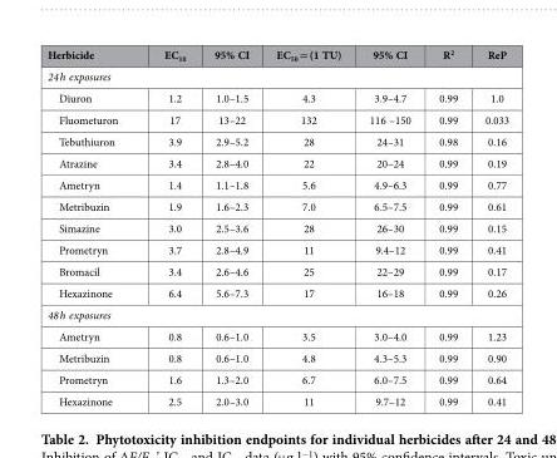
<table><thead><tr><td>Herbicide</td><td>EC<sub>10</sub></td><td>95% CI</td><td>EC<sub>50</sub> = (1 TU)</td><td>95% CI</td><td>R<sup>2</sup></td><td>ReP</td></tr></thead><tbody><tr><td colspan="7">24 h exposures</td></tr><tr><td>Diuron</td><td>1.2</td><td>1.0–1.5</td><td>4.3</td><td>3.9–4.7</td><td>0.99</td><td>1.0</td></tr><tr><td>Fluometuron</td><td>17</td><td>13–22</td><td>132</td><td>116 –150</td><td>0.99</td><td>0.033</td></tr><tr><td>Tebuthiuron</td><td>3.9</td><td>2.9–5.2</td><td>28</td><td>24–31</td><td>0.98</td><td>0.16</td></tr><tr><td>Atrazine</td><td>3.4</td><td>2.8–4.0</td><td>22</td><td>20–24</td><td>0.99</td><td>0.19</td></tr><tr><td>Ametryn</td><td>1.4</td><td>1.1–1.8</td><td>5.6</td><td>4.9–6.3</td><td>0.99</td><td>0.77</td></tr><tr><td>Metribuzin</td><td>1.9</td><td>1.6–2.3</td><td>7.0</td><td>6.5–7.5</td><td>0.99</td><td>0.61</td></tr><tr><td>Simazine</td><td>3.0</td><td>2.5–3.6</td><td>28</td><td>26–30</td><td>0.99</td><td>0.15</td></tr><tr><td>Prometryn</td><td>3.7</td><td>2.8–4.9</td><td>11</td><td>9.4–12</td><td>0.99</td><td>0.41</td></tr><tr><td>Bromacil</td><td>3.4</td><td>2.6–4.6</td><td>25</td><td>22–29</td><td>0.99</td><td>0.17</td></tr><tr><td>Hexazinone</td><td>6.4</td><td>5.6–7.3</td><td>17</td><td>16–18</td><td>0.99</td><td>0.26</td></tr><tr><td colspan="7">48 h exposures</td></tr><tr><td>Ametryn</td><td>0.8</td><td>0.6–1.0</td><td>3.5</td><td>3.0–4.0</td><td>0.99</td><td>1.23</td></tr><tr><td>Metribuzin</td><td>0.8</td><td>0.6–1.0</td><td>4.8</td><td>4.3–5.3</td><td>0.99</td><td>0.90</td></tr><tr><td>Prometryn</td><td>1.6</td><td>1.3–2.0</td><td>6.7</td><td>6.0–7.5</td><td>0.99</td><td>0.64</td></tr><tr><td>Hexazinone</td><td>2.5</td><td>2.0–3.0</td><td>11</td><td>9.7–12</td><td>0.99</td><td>0.41</td></tr></tbody></table>